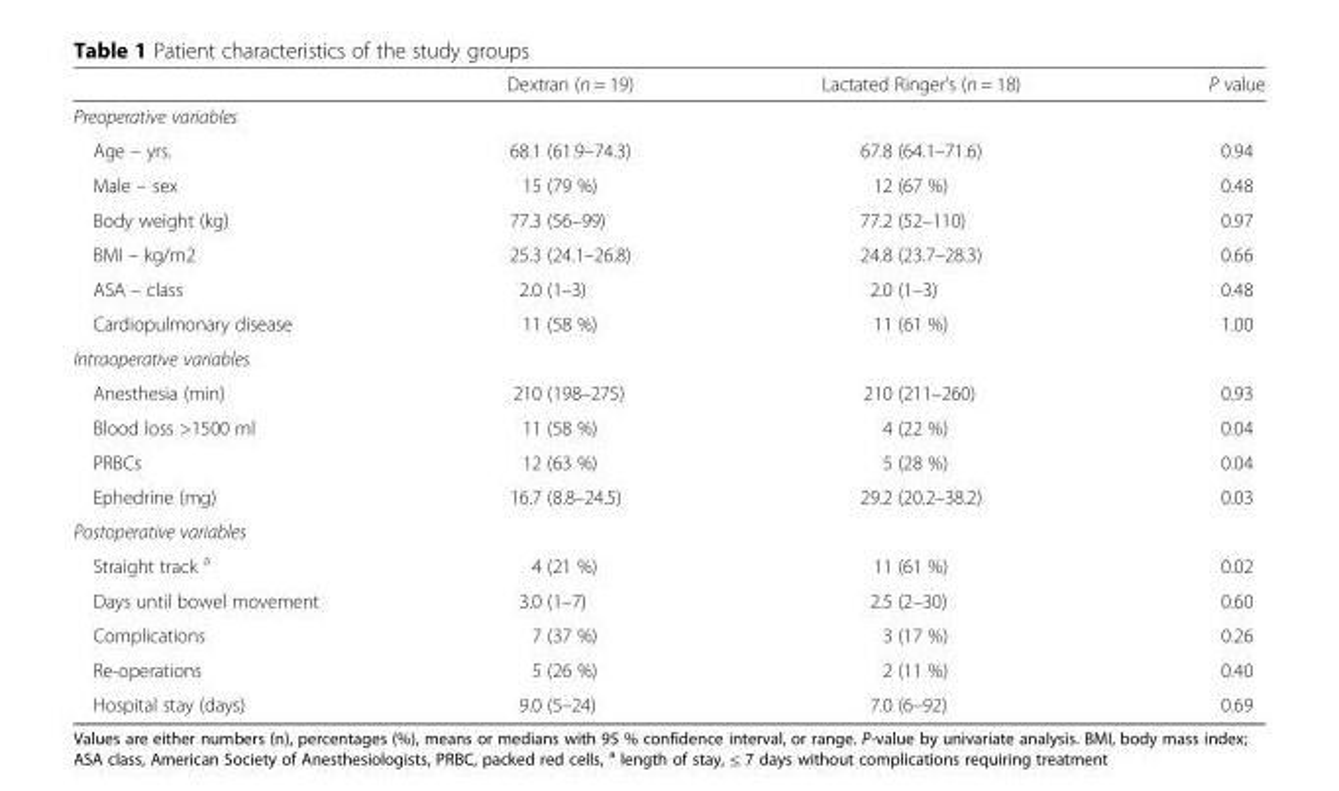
<table><thead><tr><td></td><td>Dextran (n = 19)</td><td>Lactated Ringer’s (n = 18)</td><td>P value</td></tr></thead><tbody><tr><td colspan="4">Preoperative variables</td></tr><tr><td>Age – yrs.</td><td>68.1 (61.9–74.3)</td><td>67.8 (64.1–71.6)</td><td>0.94</td></tr><tr><td>Male – sex</td><td>15 (79 %)</td><td>12 (67 %)</td><td>0.48</td></tr><tr><td>Body weight (kg)</td><td>77.3 (56–99)</td><td>77.2 (52–110)</td><td>0.97</td></tr><tr><td>BMI – kg/m2</td><td>25.3 (24.1–26.8)</td><td>24.8 (23.7–28.3)</td><td>0.66</td></tr><tr><td>ASA – class</td><td>2.0 (1–3)</td><td>2.0 (1–3)</td><td>0.48</td></tr><tr><td>Cardiopulmonary disease</td><td>11 (58 %)</td><td>11 (61 %)</td><td>1.00</td></tr><tr><td colspan="4">Intraoperative variables</td></tr><tr><td>Anesthesia (min)</td><td>210 (198–275)</td><td>210 (211–260)</td><td>0.93</td></tr><tr><td>Blood loss &gt;1500 ml</td><td>11 (58 %)</td><td>4 (22 %)</td><td>0.04</td></tr><tr><td>PRBCs</td><td>12 (63 %)</td><td>5 (28 %)</td><td>0.04</td></tr><tr><td>Ephedrine (mg)</td><td>16.7 (8.8–24.5)</td><td>29.2 (20.2–38.2)</td><td>0.03</td></tr><tr><td colspan="4">Postoperative variables</td></tr><tr><td>Straight track <sup>a</sup></td><td>4 (21 %)</td><td>11 (61 %)</td><td>0.02</td></tr><tr><td>Days until bowel movement</td><td>3.0 (1–7)</td><td>2.5 (2–30)</td><td>0.60</td></tr><tr><td>Complications</td><td>7 (37 %)</td><td>3 (17 %)</td><td>0.26</td></tr><tr><td>Re-operations</td><td>5 (26 %)</td><td>2 (11 %)</td><td>0.40</td></tr><tr><td>Hospital stay (days)</td><td>9.0 (5–24)</td><td>7.0 (6–92)</td><td>0.69</td></tr></tbody></table>